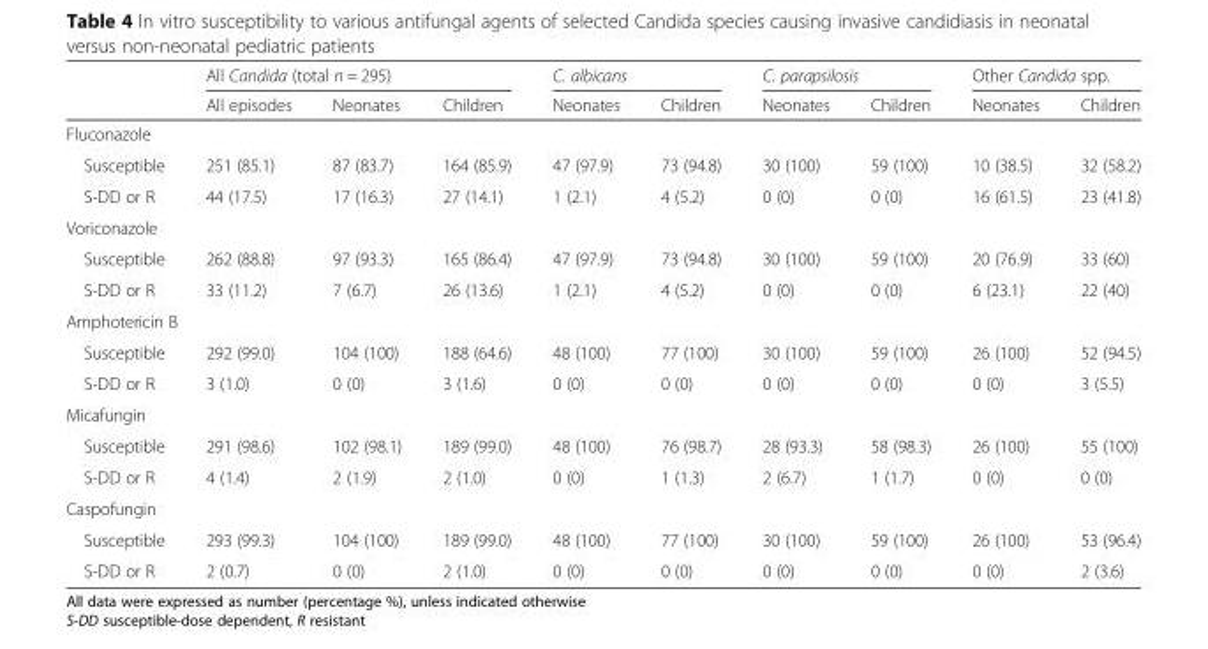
<table><thead><tr><td rowspan="2"></td><td colspan="3">All Candida (total n = 295)</td><td colspan="2">C. albicans</td><td colspan="2">C. parapsilosis</td><td colspan="2">Other Candida spp.</td></tr><tr><td>All episodes</td><td>Neonates</td><td>Children</td><td>Neonates</td><td>Children</td><td>Neonates</td><td>Children</td><td>Neonates</td><td>Children</td></tr></thead><tbody><tr><td colspan="10">Fluconazole</td></tr><tr><td>Susceptible</td><td>251 (85.1)</td><td>87 (83.7)</td><td>164 (85.9)</td><td>47 (97.9)</td><td>73 (94.8)</td><td>30 (100)</td><td>59 (100)</td><td>10 (38.5)</td><td>32 (58.2)</td></tr><tr><td>S-DD or R</td><td>44 (17.5)</td><td>17 (16.3)</td><td>27 (14.1)</td><td>1 (2.1)</td><td>4 (5.2)</td><td>0 (0)</td><td>0 (0)</td><td>16 (61.5)</td><td>23 (41.8)</td></tr><tr><td colspan="10">Voriconazole</td></tr><tr><td>Susceptible</td><td>262 (88.8)</td><td>97 (93.3)</td><td>165 (86.4)</td><td>47 (97.9)</td><td>73 (94.8)</td><td>30 (100)</td><td>59 (100)</td><td>20 (76.9)</td><td>33 (60)</td></tr><tr><td>S-DD or R</td><td>33 (11.2)</td><td>7 (6.7)</td><td>26 (13.6)</td><td>1 (2.1)</td><td>4 (5.2)</td><td>0 (0)</td><td>0 (0)</td><td>6 (23.1)</td><td>22 (40)</td></tr><tr><td colspan="10">Amphotericin B</td></tr><tr><td>Susceptible</td><td>292 (99.0)</td><td>104 (100)</td><td>188 (64.6)</td><td>48 (100)</td><td>77 (100)</td><td>30 (100)</td><td>59 (100)</td><td>26 (100)</td><td>52 (94.5)</td></tr><tr><td>S-DD or R</td><td>3 (1.0)</td><td>0 (0)</td><td>3 (1.6)</td><td>0 (0)</td><td>0 (0)</td><td>0 (0)</td><td>0 (0)</td><td>0 (0)</td><td>3 (5.5)</td></tr><tr><td colspan="10">Micafungin</td></tr><tr><td>Susceptible</td><td>291 (98.6)</td><td>102 (98.1)</td><td>189 (99.0)</td><td>48 (100)</td><td>76 (98.7)</td><td>28 (93.3)</td><td>58 (98.3)</td><td>26 (100)</td><td>55 (100)</td></tr><tr><td>S-DD or R</td><td>4 (1.4)</td><td>2 (1.9)</td><td>2 (1.0)</td><td>0 (0)</td><td>1 (1.3)</td><td>2 (6.7)</td><td>1 (1.7)</td><td>0 (0)</td><td>0 (0)</td></tr><tr><td colspan="10">Caspofungin</td></tr><tr><td>Susceptible</td><td>293 (99.3)</td><td>104 (100)</td><td>189 (99.0)</td><td>48 (100)</td><td>77 (100)</td><td>30 (100)</td><td>59 (100)</td><td>26 (100)</td><td>53 (96.4)</td></tr><tr><td>S-DD or R</td><td>2 (0.7)</td><td>0 (0)</td><td>2 (1.0)</td><td>0 (0)</td><td>0 (0)</td><td>0 (0)</td><td>0 (0)</td><td>0 (0)</td><td>2 (3.6)</td></tr></tbody></table>